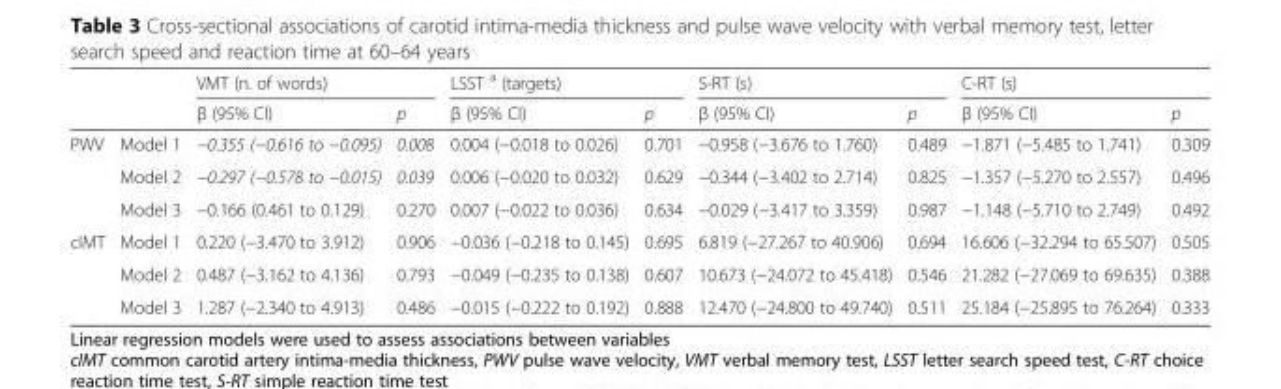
<table><thead><tr><td rowspan="2"></td><td rowspan="2"></td><td colspan="2">VMT (n. of words)</td><td colspan="2">LSST <sup>a</sup> (targets)</td><td colspan="2">S-RT (s)</td><td colspan="2">C-RT (s)</td></tr><tr><td>β (95% CI)</td><td>p</td><td>β (95% CI)</td><td>p</td><td>β (95% CI)</td><td>p</td><td>β (95% CI)</td><td>p</td></tr></thead><tbody><tr><td rowspan="3">PWV</td><td>Model 1</td><td>−0.355 (−0.616 to −0.095)</td><td>0.008</td><td>0.004 (−0.018 to 0.026)</td><td>0.701</td><td>−0.958 (−3.676 to 1.760)</td><td>0.489</td><td>−1.871 (−5.485 to 1.741)</td><td>0.309</td></tr><tr><td>Model 2</td><td>−0.297 (−0.578 to −0.015)</td><td>0.039</td><td>0.006 (−0.020 to 0.032)</td><td>0.629</td><td>−0.344 (−3.402 to 2.714)</td><td>0.825</td><td>−1.357 (−5.270 to 2.557)</td><td>0.496</td></tr><tr><td>Model 3</td><td>−0.166 (0.461 to 0.129)</td><td>0.270</td><td>0.007 (−0.022 to 0.036)</td><td>0.634</td><td>−0.029 (−3.417 to 3.359)</td><td>0.987</td><td>−1.148 (−5.710 to 2.749)</td><td>0.492</td></tr><tr><td rowspan="3">cIMT</td><td>Model 1</td><td>0.220 (−3.470 to 3.912)</td><td>0.906</td><td>−0.036 (−0.218 to 0.145)</td><td>0.695</td><td>6.819 (−27.267 to 40.906)</td><td>0.694</td><td>16.606 (−32.294 to 65.507)</td><td>0.505</td></tr><tr><td>Model 2</td><td>0.487 (−3.162 to 4.136)</td><td>0.793</td><td>−0.049 (−0.235 to 0.138)</td><td>0.607</td><td>10.673 (−24.072 to 45.418)</td><td>0.546</td><td>21.282 (−27.069 to 69.635)</td><td>0.388</td></tr><tr><td>Model 3</td><td>1.287 (−2.340 to 4.913)</td><td>0.486</td><td>−0.015 (−0.222 to 0.192)</td><td>0.888</td><td>12.470 (−24.800 to 49.740)</td><td>0.511</td><td>25.184 (−25.895 to 76.264)</td><td>0.333</td></tr></tbody></table>